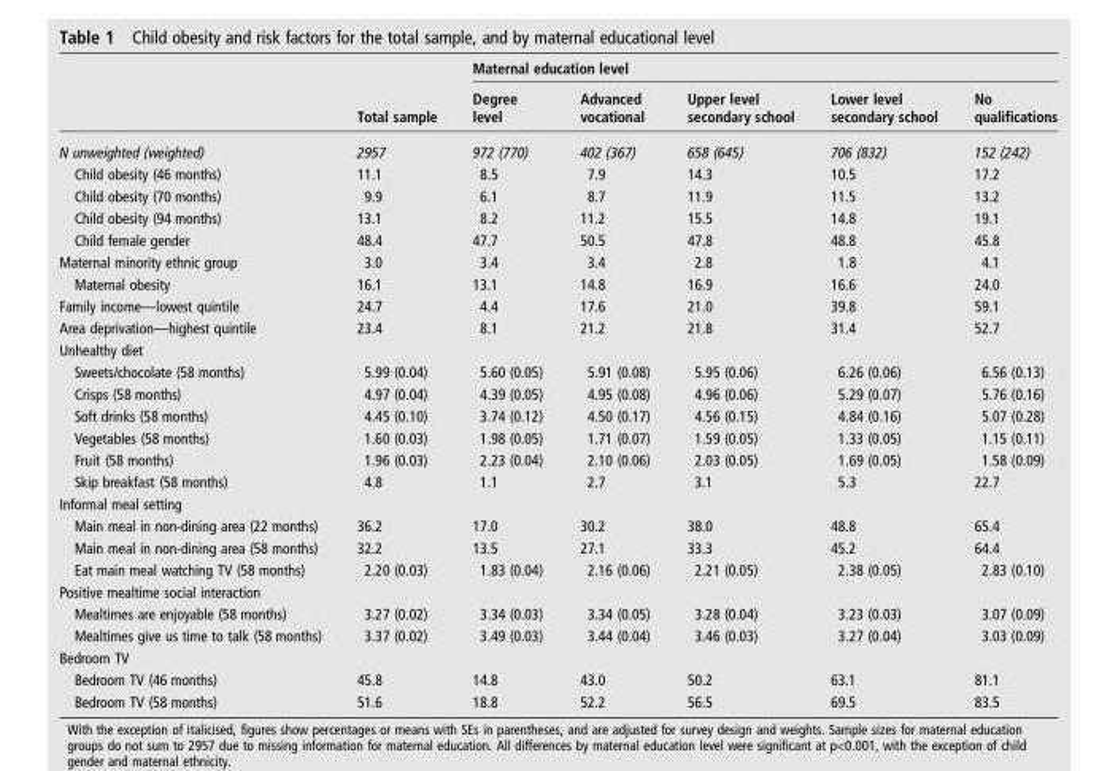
<table><thead><tr><td rowspan="2"></td><td rowspan="2">Total sample</td><td colspan="5">Maternal education level</td></tr><tr><td>Degree level</td><td>Advanced vocational</td><td>Upper level secondary school</td><td>Lower level secondary school</td><td>No qualifications</td></tr></thead><tbody><tr><td>N unweighted (weighted)</td><td>2957</td><td>972 (770)</td><td>402 (367)</td><td>658 (645)</td><td>706 (832)</td><td>152 (242)</td></tr><tr><td>Child obesity (46 months)</td><td>11.1</td><td>8.5</td><td>7.9</td><td>14.3</td><td>10.5</td><td>17.2</td></tr><tr><td>Child obesity (70 months)</td><td>9.9</td><td>6.1</td><td>8.7</td><td>11.9</td><td>11.5</td><td>13.2</td></tr><tr><td>Child obesity (94 months)</td><td>13.1</td><td>8.2</td><td>11.2</td><td>15.5</td><td>14.8</td><td>19.1</td></tr><tr><td>Child female gender</td><td>48.4</td><td>47.7</td><td>50.5</td><td>47.8</td><td>48.8</td><td>45.8</td></tr><tr><td>Maternal minority ethnic group</td><td>3.0</td><td>3.4</td><td>3.4</td><td>2.8</td><td>1.8</td><td>4.1</td></tr><tr><td>Maternal obesity</td><td>16.1</td><td>13.1</td><td>14.8</td><td>16.9</td><td>16.6</td><td>24.0</td></tr><tr><td>Family income—lowest quintile</td><td>24.7</td><td>4.4</td><td>17.6</td><td>21.0</td><td>39.8</td><td>59.1</td></tr><tr><td>Area deprivation—highest quintile</td><td>23.4</td><td>8.1</td><td>21.2</td><td>21.8</td><td>31.4</td><td>52.7</td></tr><tr><td colspan="7">Unhealthy diet</td></tr><tr><td>Sweets/chocolate (58 months)</td><td>5.99 (0.04)</td><td>5.60 (0.05)</td><td>5.91 (0.08)</td><td>5.95 (0.06)</td><td>6.26 (0.06)</td><td>6.56 (0.13)</td></tr><tr><td>Crisps (58 months)</td><td>4.97 (0.04)</td><td>4.39 (0.05)</td><td>4.95 (0.08)</td><td>4.96 (0.06)</td><td>5.29 (0.07)</td><td>5.76 (0.16)</td></tr><tr><td>Soft drinks (58 months)</td><td>4.45 (0.10)</td><td>3.74 (0.12)</td><td>4.50 (0.17)</td><td>4.56 (0.15)</td><td>4.84 (0.16)</td><td>5.07 (0.28)</td></tr><tr><td>Vegetables (58 months)</td><td>1.60 (0.03)</td><td>1.98 (0.05)</td><td>1.71 (0.07)</td><td>1.59 (0.05)</td><td>1.33 (0.05)</td><td>1.15 (0.11)</td></tr><tr><td>Fruit (58 months)</td><td>1.96 (0.03)</td><td>2.23 (0.04)</td><td>2.10 (0.06)</td><td>2.03 (0.05)</td><td>1.69 (0.05)</td><td>1.58 (0.09)</td></tr><tr><td>Skip breakfast (58 months)</td><td>4.8</td><td>1.1</td><td>2.7</td><td>3.1</td><td>5.3</td><td>22.7</td></tr><tr><td colspan="7">Informal meal setting</td></tr><tr><td>Main meal in non-dining area (22 months)</td><td>36.2</td><td>17.0</td><td>30.2</td><td>38.0</td><td>48.8</td><td>65.4</td></tr><tr><td>Main meal in non-dining area (58 months)</td><td>32.2</td><td>13.5</td><td>27.1</td><td>33.3</td><td>45.2</td><td>64.4</td></tr><tr><td>Eat main meal watching TV (58 months)</td><td>2.20 (0.03)</td><td>1.83 (0.04)</td><td>2.16 (0.06)</td><td>2.21 (0.05)</td><td>2.38 (0.05)</td><td>2.83 (0.10)</td></tr><tr><td colspan="7">Positive mealtime social interaction</td></tr><tr><td>Mealtimes are enjoyable (58 months)</td><td>3.27 (0.02)</td><td>3.34 (0.03)</td><td>3.34 (0.05)</td><td>3.28 (0.04)</td><td>3.23 (0.03)</td><td>3.07 (0.09)</td></tr><tr><td>Mealtimes give us time to talk (58 months)</td><td>3.37 (0.02)</td><td>3.49 (0.03)</td><td>3.44 (0.04)</td><td>3.46 (0.03)</td><td>3.27 (0.04)</td><td>3.03 (0.09)</td></tr><tr><td colspan="7">Bedroom TV</td></tr><tr><td>Bedroom TV (46 months)</td><td>45.8</td><td>14.8</td><td>43.0</td><td>50.2</td><td>63.1</td><td>81.1</td></tr><tr><td>Bedroom TV (58 months)</td><td>51.6</td><td>18.8</td><td>52.2</td><td>56.5</td><td>69.5</td><td>83.5</td></tr></tbody></table>